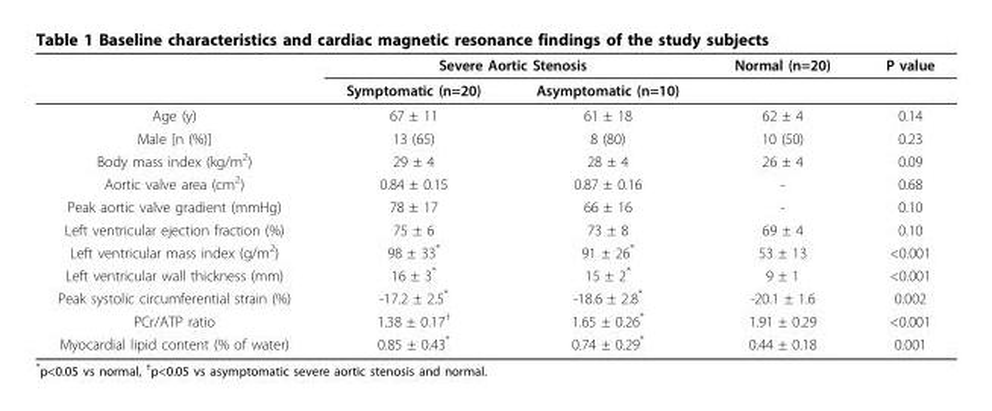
<table><thead><tr><td rowspan="2"></td><td colspan="2">Severe Aortic Stenosis</td><td rowspan="2">Normal (n=20)</td><td rowspan="2">P value</td></tr><tr><td>Symptomatic (n=20)</td><td>Asymptomatic (n=10)</td></tr></thead><tbody><tr><td>Age (y)</td><td>67 ± 11</td><td>61 ± 18</td><td>62 ± 4</td><td>0.14</td></tr><tr><td>Male [n (%)]</td><td>13 (65)</td><td>8 (80)</td><td>10 (50)</td><td>0.23</td></tr><tr><td>Body mass index (kg/m<sup>2</sup>)</td><td>29 ± 4</td><td>28 ± 4</td><td>26 ± 4</td><td>0.09</td></tr><tr><td>Aortic valve area (cm<sup>2</sup>)</td><td>0.84 ± 0.15</td><td>0.87 ± 0.16</td><td>-</td><td>0.68</td></tr><tr><td>Peak aortic valve gradient (mmHg)</td><td>78 ± 17</td><td>66 ± 16</td><td>-</td><td>0.10</td></tr><tr><td>Left ventricular ejection fraction (%)</td><td>75 ± 6</td><td>73 ± 8</td><td>69 ± 4</td><td>0.10</td></tr><tr><td>Left ventricular mass index (g/m<sup>2</sup>)</td><td>98 ± 33*</td><td>91 ± 26*</td><td>53 ± 13</td><td>&lt;0.001</td></tr><tr><td>Left ventricular wall thickness (mm)</td><td>16 ± 3*</td><td>15 ± 2*</td><td>9 ± 1</td><td>&lt;0.001</td></tr><tr><td>Peak systolic circumferential strain (%)</td><td>-17.2 ± 2.5*</td><td>-18.6 ± 2.8*</td><td>-20.1 ± 1.6</td><td>0.002</td></tr><tr><td>PCr/ATP ratio</td><td>1.38 ± 0.17<sup>†</sup></td><td>1.65 ± 0.26*</td><td>1.91 ± 0.29</td><td>&lt;0.001</td></tr><tr><td>Myocardial lipid content (% of water)</td><td>0.85 ± 0.43*</td><td>0.74 ± 0.29*</td><td>0.44 ± 0.18</td><td>0.001</td></tr></tbody></table>